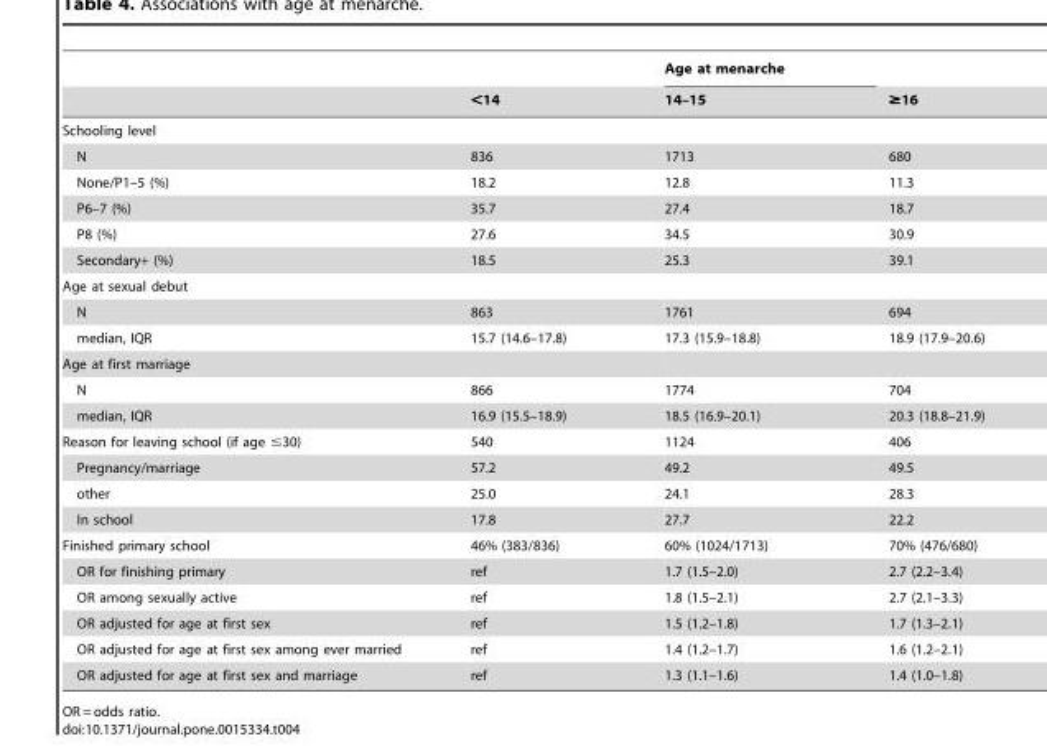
<table><thead><tr><td rowspan="2"></td><td rowspan="2">&lt;14</td><td rowspan="2">Age at menarche 14–15</td><td rowspan="2">≥16</td></tr><tr></tr></thead><tbody><tr><td colspan="4">Schooling level</td></tr><tr><td>N</td><td>836</td><td>1713</td><td>680</td></tr><tr><td>None/P1–5 (%)</td><td>18.2</td><td>12.8</td><td>11.3</td></tr><tr><td>P6–7 (%)</td><td>35.7</td><td>27.4</td><td>18.7</td></tr><tr><td>P8 (%)</td><td>27.6</td><td>34.5</td><td>30.9</td></tr><tr><td>Secondary+ (%)</td><td>18.5</td><td>25.3</td><td>39.1</td></tr><tr><td colspan="4">Age at sexual debut</td></tr><tr><td>N</td><td>863</td><td>1761</td><td>694</td></tr><tr><td>median, IQR</td><td>15.7 (14.6–17.8)</td><td>17.3 (15.9–18.8)</td><td>18.9 (17.9–20.6)</td></tr><tr><td colspan="4">Age at first marriage</td></tr><tr><td>N</td><td>866</td><td>1774</td><td>704</td></tr><tr><td>median, IQR</td><td>16.9 (15.5–18.9)</td><td>18.5 (16.9–20.1)</td><td>20.3 (18.8–21.9)</td></tr><tr><td>Reason for leaving school (if age ≤30)</td><td>540</td><td>1124</td><td>406</td></tr><tr><td>Pregnancy/marriage</td><td>57.2</td><td>49.2</td><td>49.5</td></tr><tr><td>other</td><td>25.0</td><td>24.1</td><td>28.3</td></tr><tr><td>In school</td><td>17.8</td><td>27.7</td><td>22.2</td></tr><tr><td>Finished primary school</td><td>46% (383/836)</td><td>60% (1024/1713)</td><td>70% (476/680)</td></tr><tr><td>OR for finishing primary</td><td>ref</td><td>1.7 (1.5–2.0)</td><td>2.7 (2.2–3.4)</td></tr><tr><td>OR among sexually active</td><td>ref</td><td>1.8 (1.5–2.1)</td><td>2.7 (2.1–3.3)</td></tr><tr><td>OR adjusted for age at first sex</td><td>ref</td><td>1.5 (1.2–1.8)</td><td>1.7 (1.3–2.1)</td></tr><tr><td>OR adjusted for age at first sex among ever married</td><td>ref</td><td>1.4 (1.2–1.7)</td><td>1.6 (1.2–2.1)</td></tr><tr><td>OR adjusted for age at first sex and marriage</td><td>ref</td><td>1.3 (1.1–1.6)</td><td>1.4 (1.0–1.8)</td></tr></tbody></table>